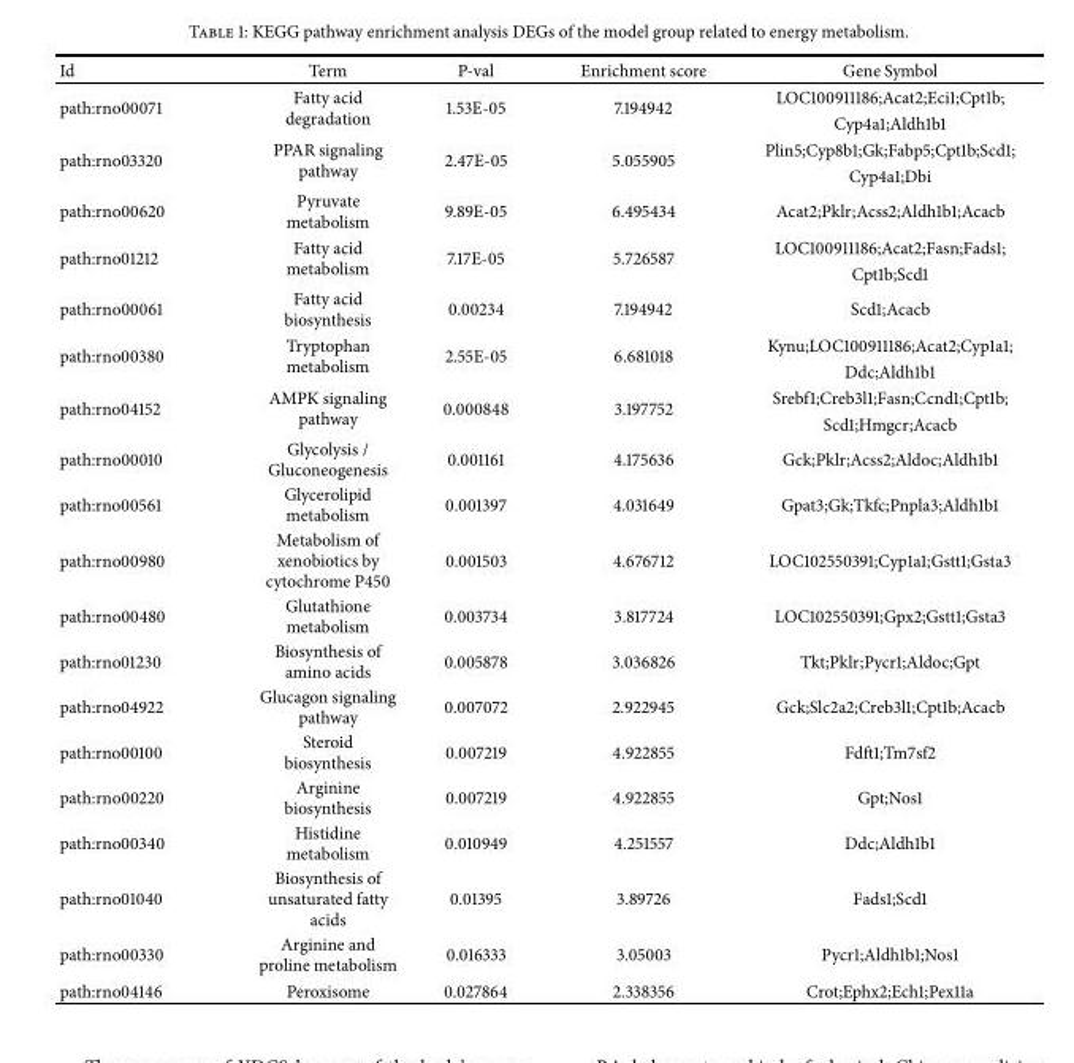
<table><thead><tr><td>Id</td><td>Term</td><td>P-val</td><td>Enrichment score</td><td>Gene Symbol</td></tr></thead><tbody><tr><td rowspan="2">path:rno00071</td><td rowspan="2">Fatty acid degradation</td><td rowspan="2">1.53E-05</td><td rowspan="2">7.194942</td><td>LOC100911186;Acat2;Eci1;Cpt1b;</td></tr><tr><td>Cyp4a1;Aldh1b1</td></tr><tr><td rowspan="2">path:rno03320</td><td rowspan="2">PPAR signaling pathway</td><td rowspan="2">2.47E-05</td><td rowspan="2">5.055905</td><td>Plin5;Cyp8b1;Gk;Fabp5;Cpt1b;Scd1;</td></tr><tr><td>Cyp4a1;Dbi</td></tr><tr><td>path:rno00620</td><td>Pyruvate metabolism</td><td>9.89E-05</td><td>6.495434</td><td>Acat2;Pklr;Acss2;Aldh1b1;Acacb</td></tr><tr><td rowspan="2">path:rno01212</td><td rowspan="2">Fatty acid metabolism</td><td rowspan="2">7.17E-05</td><td rowspan="2">5.726587</td><td>LOC100911186;Acat2;Fasn;Fads1;</td></tr><tr><td>Cpt1b;Scd1</td></tr><tr><td>path:rno00061</td><td>Fatty acid biosynthesis</td><td>0.00234</td><td>7.194942</td><td>Scd1;Acacb</td></tr><tr><td rowspan="2">path:rno00380</td><td rowspan="2">Tryptophan metabolism</td><td rowspan="2">2.55E-05</td><td rowspan="2">6.681018</td><td>Kynu;LOC100911186;Acat2;Cyp1a1;</td></tr><tr><td>Ddc;Aldh1b1</td></tr><tr><td rowspan="2">path:rno04152</td><td rowspan="2">AMPK signaling pathway</td><td rowspan="2">0.000848</td><td rowspan="2">3.197752</td><td>Srebf1;Creb3l1;Fasn;Ccnd1;Cpt1b;</td></tr><tr><td>Scd1;Hmgcr;Acacb</td></tr><tr><td>path:rno00010</td><td>Glycolysis / Gluconeogenesis</td><td>0.001161</td><td>4.175636</td><td>Gck;Pklr;Acss2;Aldoc;Aldh1b1</td></tr><tr><td>path:rno00561</td><td>Glycerolipid metabolism</td><td>0.001397</td><td>4.031649</td><td>Gpat3;Gk;Tkfc;Pnpla3;Aldh1b1</td></tr><tr><td>path:rno00980</td><td>Metabolism of xenobiotics by cytochrome P450</td><td>0.001503</td><td>4.676712</td><td>LOC102550391;Cyp1a1;Gstt1;Gsta3</td></tr><tr><td>path:rno00480</td><td>Glutathione metabolism</td><td>0.003734</td><td>3.817724</td><td>LOC102550391;Gpx2;Gstt1;Gsta3</td></tr><tr><td>path:rno01230</td><td>Biosynthesis of amino acids</td><td>0.005878</td><td>3.036826</td><td>Tkt;Pklr;Pycr1;Aldoc;Gpt</td></tr><tr><td>path:rno04922</td><td>Glucagon signaling pathway</td><td>0.007072</td><td>2.922945</td><td>Gck;Slc2a2;Creb3l1;Cpt1b;Acacb</td></tr><tr><td>path:rno00100</td><td>Steroid biosynthesis</td><td>0.007219</td><td>4.922855</td><td>Fdft1;Tm7sf2</td></tr><tr><td>path:rno00220</td><td>Arginine biosynthesis</td><td>0.007219</td><td>4.922855</td><td>Gpt;Nos1</td></tr><tr><td>path:rno00340</td><td>Histidine metabolism</td><td>0.010949</td><td>4.251557</td><td>Ddc;Aldh1b1</td></tr><tr><td>path:rno01040</td><td>Biosynthesis of unsaturated fatty acids</td><td>0.01395</td><td>3.89726</td><td>Fads1;Scd1</td></tr><tr><td>path:rno00330</td><td>Arginine and proline metabolism</td><td>0.016333</td><td>3.05003</td><td>Pycr1;Aldh1b1;Nos1</td></tr><tr><td>path:rno04146</td><td>Peroxisome</td><td>0.027864</td><td>2.338356</td><td>Crot;Ephx2;Ech1;Pex11a</td></tr></tbody></table>